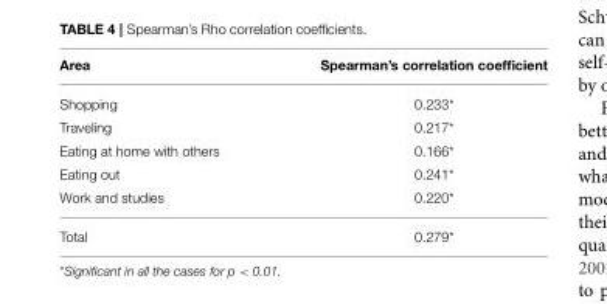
<table><thead><tr><td>Area</td><td>Spearman’s correlation coefficient</td></tr></thead><tbody><tr><td>Shopping</td><td>0.233*</td></tr><tr><td>Traveling</td><td>0.217*</td></tr><tr><td>Eating at home with others</td><td>0.166*</td></tr><tr><td>Eating out</td><td>0.241*</td></tr><tr><td>Work and studies</td><td>0.220*</td></tr><tr><td>Total</td><td>0.279*</td></tr></tbody></table>